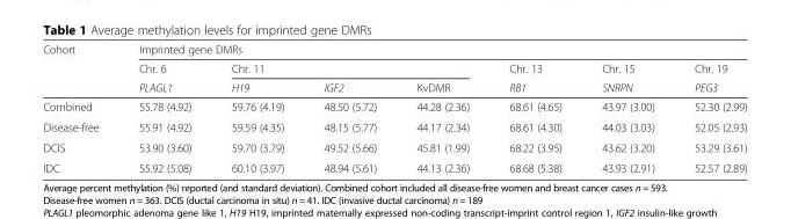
<table><thead><tr><td rowspan="3">Cohort</td><td colspan="7">Imprinted gene DMRs</td></tr><tr><td rowspan="2">Chr. 6 PLAGL1</td><td colspan="3">Chr. 11</td><td rowspan="2">Chr. 13 RB1</td><td rowspan="2">Chr. 15 SNRPN</td><td rowspan="2">Chr. 19 PEG3</td></tr><tr><td>H19</td><td>IGF2</td><td>KvDMR</td></tr></thead><tbody><tr><td>Combined</td><td>55.78 (4.92)</td><td>59.76 (4.19)</td><td>48.50 (5.72)</td><td>44.28 (2.36)</td><td>68.61 (4.65)</td><td>43.97 (3.00)</td><td>52.30 (2.99)</td></tr><tr><td>Disease-free</td><td>55.91 (4.92)</td><td>59.59 (4.35)</td><td>48.15 (5.77)</td><td>44.17 (2.34)</td><td>68.61 (4.30)</td><td>44.03 (3.03)</td><td>52.05 (2.93)</td></tr><tr><td>DCIS</td><td>53.90 (3.60)</td><td>59.70 (3.79)</td><td>49.52 (5.66)</td><td>45.81 (1.99)</td><td>68.22 (3.95)</td><td>43.62 (3.20)</td><td>53.29 (3.61)</td></tr><tr><td>IDC</td><td>55.92 (5.08)</td><td>60.10 (3.97)</td><td>48.94 (5.61)</td><td>44.13 (2.36)</td><td>68.68 (5.38)</td><td>43.93 (2.91)</td><td>52.57 (2.89)</td></tr></tbody></table>